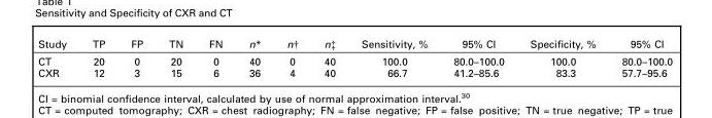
<table><thead><tr><td>Study</td><td>TP</td><td>FP</td><td>TN</td><td>FN</td><td>n*</td><td>n†</td><td>n‡</td><td>Sensitivity, %</td><td>95% CI</td><td>Specificity, %</td><td>95% CI</td></tr></thead><tbody><tr><td>CT</td><td>20</td><td>0</td><td>20</td><td>0</td><td>40</td><td>0</td><td>40</td><td>100.0</td><td>80.0–100.0</td><td>100.0</td><td>80.0–100.0</td></tr><tr><td>CXR</td><td>12</td><td>3</td><td>15</td><td>6</td><td>36</td><td>4</td><td>40</td><td>66.7</td><td>41.2–85.6</td><td>83.3</td><td>57.7–95.6</td></tr></tbody></table>